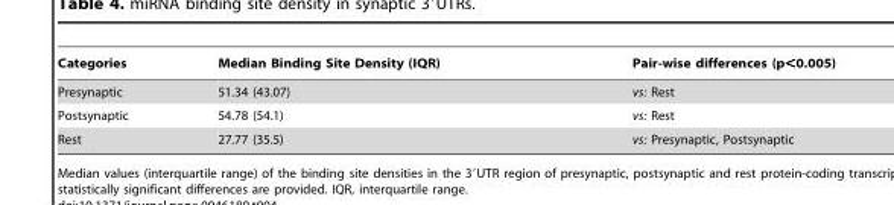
<table><thead><tr><td>Categories</td><td>Median Binding Site Density (IQR)</td><td>Pair-wise differences (p&lt;0.005)</td></tr></thead><tbody><tr><td>Presynaptic</td><td>51.34 (43.07)</td><td>vs: Rest</td></tr><tr><td>Postsynaptic</td><td>54.78 (54.1)</td><td>vs: Rest</td></tr><tr><td>Rest</td><td>27.77 (35.5)</td><td>vs: Presynaptic, Postsynaptic</td></tr></tbody></table>